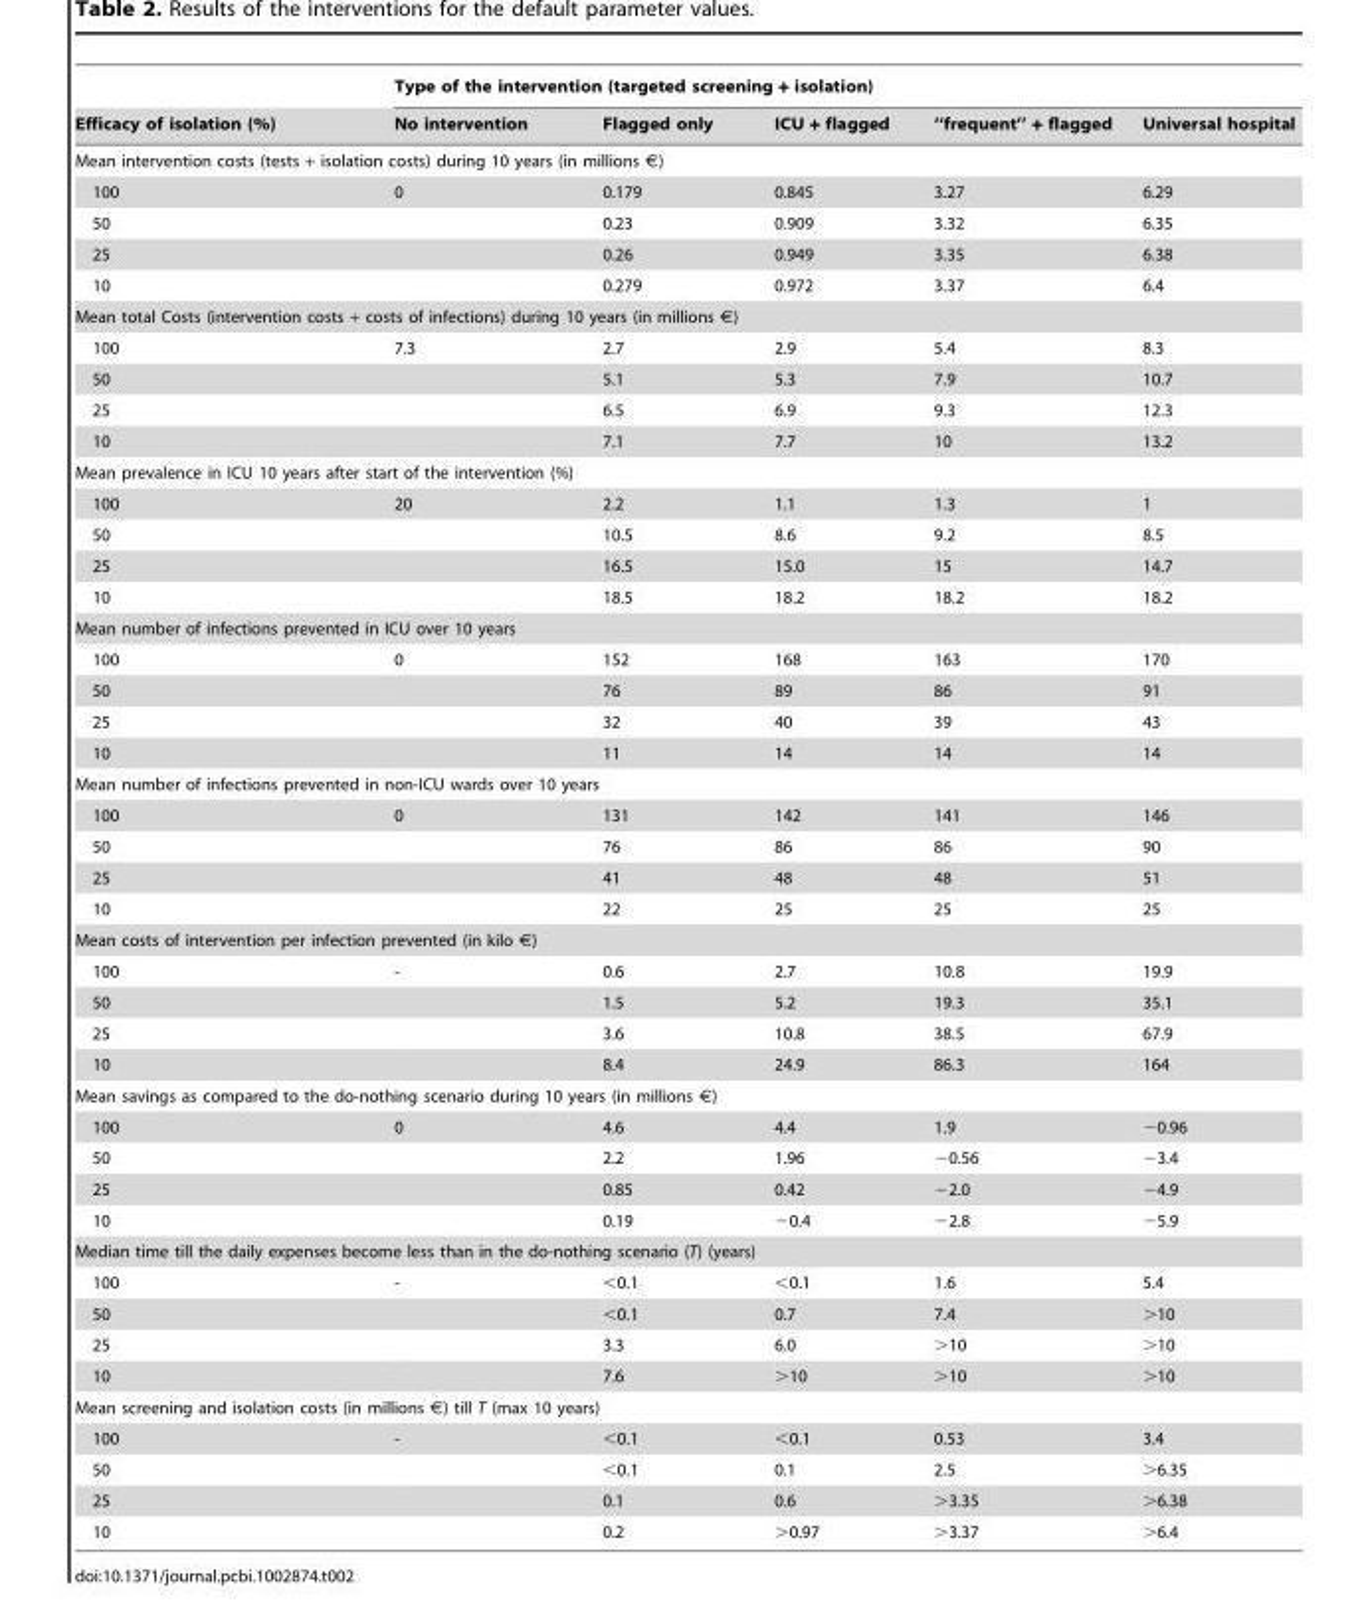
<table><thead><tr><td rowspan="2">Efficacy of isolation (%)</td><td colspan="5">Type of the intervention (targeted screening + isolation)</td></tr><tr><td>No intervention</td><td>Flagged only</td><td>ICU + flagged</td><td>‘‘frequent’’ + flagged</td><td>Universal hospital</td></tr></thead><tbody><tr><td colspan="6">Mean intervention costs (tests + isolation costs) during 10 years (in millions €)</td></tr><tr><td>100</td><td>0</td><td>0.179</td><td>0.845</td><td>3.27</td><td>6.29</td></tr><tr><td>50</td><td></td><td>0.23</td><td>0.909</td><td>3.32</td><td>6.35</td></tr><tr><td>25</td><td></td><td>0.26</td><td>0.949</td><td>3.35</td><td>6.38</td></tr><tr><td>10</td><td></td><td>0.279</td><td>0.972</td><td>3.37</td><td>6.4</td></tr><tr><td colspan="6">Mean total Costs (intervention costs + costs of infections) during 10 years (in millions €)</td></tr><tr><td>100</td><td>7.3</td><td>2.7</td><td>2.9</td><td>5.4</td><td>8.3</td></tr><tr><td>50</td><td></td><td>5.1</td><td>5.3</td><td>7.9</td><td>10.7</td></tr><tr><td>25</td><td></td><td>6.5</td><td>6.9</td><td>9.3</td><td>12.3</td></tr><tr><td>10</td><td></td><td>7.1</td><td>7.7</td><td>10</td><td>13.2</td></tr><tr><td colspan="6">Mean prevalence in ICU 10 years after start of the intervention (%)</td></tr><tr><td>100</td><td>20</td><td>2.2</td><td>1.1</td><td>1.3</td><td>1</td></tr><tr><td>50</td><td></td><td>10.5</td><td>8.6</td><td>9.2</td><td>8.5</td></tr><tr><td>25</td><td></td><td>16.5</td><td>15.0</td><td>15</td><td>14.7</td></tr><tr><td>10</td><td></td><td>18.5</td><td>18.2</td><td>18.2</td><td>18.2</td></tr><tr><td colspan="6">Mean number of infections prevented in ICU over 10 years</td></tr><tr><td>100</td><td>0</td><td>152</td><td>168</td><td>163</td><td>170</td></tr><tr><td>50</td><td></td><td>76</td><td>89</td><td>86</td><td>91</td></tr><tr><td>25</td><td></td><td>32</td><td>40</td><td>39</td><td>43</td></tr><tr><td>10</td><td></td><td>11</td><td>14</td><td>14</td><td>14</td></tr><tr><td colspan="6">Mean number of infections prevented in non-ICU wards over 10 years</td></tr><tr><td>100</td><td>0</td><td>131</td><td>142</td><td>141</td><td>146</td></tr><tr><td>50</td><td></td><td>76</td><td>86</td><td>86</td><td>90</td></tr><tr><td>25</td><td></td><td>41</td><td>48</td><td>48</td><td>51</td></tr><tr><td>10</td><td></td><td>22</td><td>25</td><td>25</td><td>25</td></tr><tr><td colspan="6">Mean costs of intervention per infection prevented (in kilo €)</td></tr><tr><td>100</td><td>-</td><td>0.6</td><td>2.7</td><td>10.8</td><td>19.9</td></tr><tr><td>50</td><td></td><td>1.5</td><td>5.2</td><td>19.3</td><td>35.1</td></tr><tr><td>25</td><td></td><td>3.6</td><td>10.8</td><td>38.5</td><td>67.9</td></tr><tr><td>10</td><td></td><td>8.4</td><td>24.9</td><td>86.3</td><td>164</td></tr><tr><td colspan="6">Mean savings as compared to the do-nothing scenario during 10 years (in millions €)</td></tr><tr><td>100</td><td>0</td><td>4.6</td><td>4.4</td><td>1.9</td><td>−0.96</td></tr><tr><td>50</td><td></td><td>2.2</td><td>1.96</td><td>−0.56</td><td>−3.4</td></tr><tr><td>25</td><td></td><td>0.85</td><td>0.42</td><td>−2.0</td><td>−4.9</td></tr><tr><td>10</td><td></td><td>0.19</td><td>−0.4</td><td>−2.8</td><td>−5.9</td></tr><tr><td colspan="6">Median time till the daily expenses become less than in the do-nothing scenario (T) (years)</td></tr><tr><td>100</td><td>-</td><td>&lt;0.1</td><td>&lt;0.1</td><td>1.6</td><td>5.4</td></tr><tr><td>50</td><td></td><td>&lt;0.1</td><td>0.7</td><td>7.4</td><td>&gt;10</td></tr><tr><td>25</td><td></td><td>3.3</td><td>6.0</td><td>&gt;10</td><td>&gt;10</td></tr><tr><td>10</td><td></td><td>7.6</td><td>&gt;10</td><td>&gt;10</td><td>&gt;10</td></tr><tr><td colspan="6">Mean screening and isolation costs (in millions €) till T (max 10 years)</td></tr><tr><td>100</td><td>-</td><td>&lt;0.1</td><td>&lt;0.1</td><td>0.53</td><td>3.4</td></tr><tr><td>50</td><td></td><td>&lt;0.1</td><td>0.1</td><td>2.5</td><td>&gt;6.35</td></tr><tr><td>25</td><td></td><td>0.1</td><td>0.6</td><td>&gt;3.35</td><td>&gt;6.38</td></tr><tr><td>10</td><td></td><td>0.2</td><td>&gt;0.97</td><td>&gt;3.37</td><td>&gt;6.4</td></tr></tbody></table>